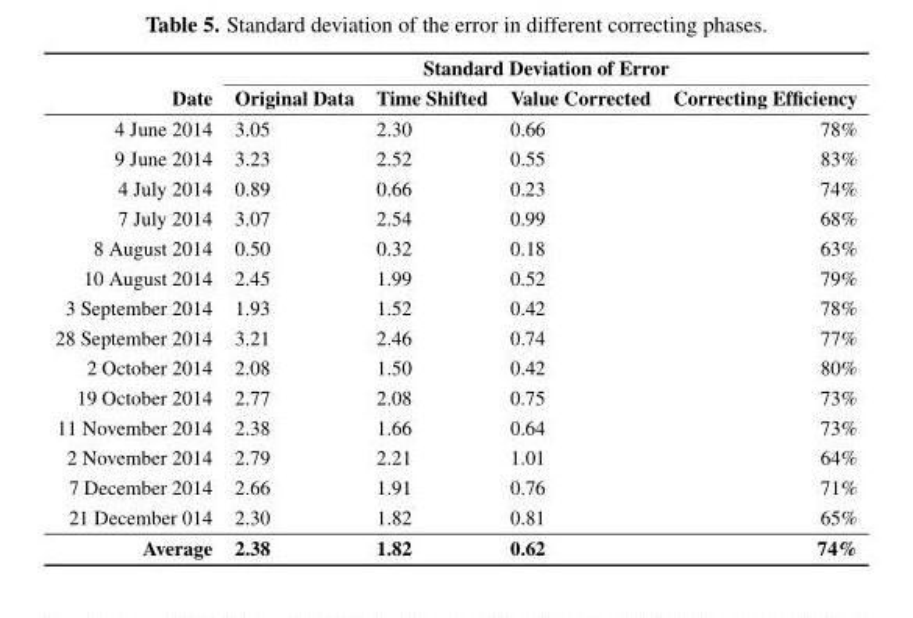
<table><thead><tr><td rowspan="2">Date</td><td colspan="4">Standard Deviation of Error</td></tr><tr><td>Original Data</td><td>Time Shifted</td><td>Value Corrected</td><td>Correcting Efficiency</td></tr></thead><tbody><tr><td>4 June 2014</td><td>3.05</td><td>2.30</td><td>0.66</td><td>78%</td></tr><tr><td>9 June 2014</td><td>3.23</td><td>2.52</td><td>0.55</td><td>83%</td></tr><tr><td>4 July 2014</td><td>0.89</td><td>0.66</td><td>0.23</td><td>74%</td></tr><tr><td>7 July 2014</td><td>3.07</td><td>2.54</td><td>0.99</td><td>68%</td></tr><tr><td>8 August 2014</td><td>0.50</td><td>0.32</td><td>0.18</td><td>63%</td></tr><tr><td>10 August 2014</td><td>2.45</td><td>1.99</td><td>0.52</td><td>79%</td></tr><tr><td>3 September 2014</td><td>1.93</td><td>1.52</td><td>0.42</td><td>78%</td></tr><tr><td>28 September 2014</td><td>3.21</td><td>2.46</td><td>0.74</td><td>77%</td></tr><tr><td>2 October 2014</td><td>2.08</td><td>1.50</td><td>0.42</td><td>80%</td></tr><tr><td>19 October 2014</td><td>2.77</td><td>2.08</td><td>0.75</td><td>73%</td></tr><tr><td>11 November 2014</td><td>2.38</td><td>1.66</td><td>0.64</td><td>73%</td></tr><tr><td>2 November 2014</td><td>2.79</td><td>2.21</td><td>1.01</td><td>64%</td></tr><tr><td>7 December 2014</td><td>2.66</td><td>1.91</td><td>0.76</td><td>71%</td></tr><tr><td>21 December 014</td><td>2.30</td><td>1.82</td><td>0.81</td><td>65%</td></tr><tr><td>Average</td><td>2.38</td><td>1.82</td><td>0.62</td><td>74%</td></tr></tbody></table>